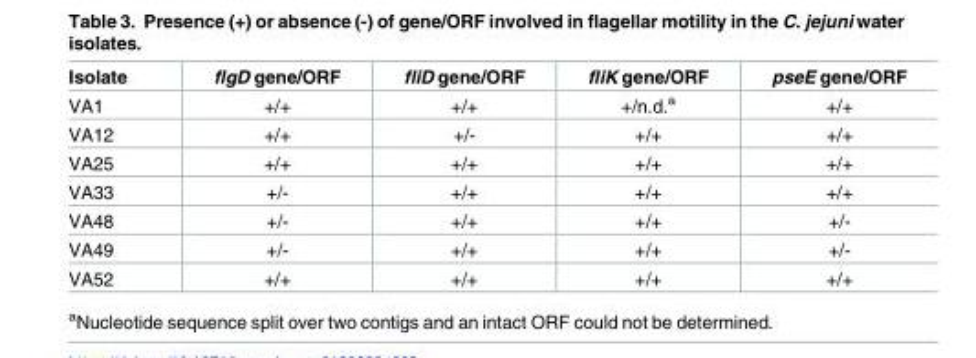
<table><thead><tr><td>Isolate</td><td>flgD gene/ORF</td><td>fliD gene/ORF</td><td>fliK gene/ORF</td><td>pseE gene/ORF</td></tr></thead><tbody><tr><td>VA1</td><td>+/+</td><td>+/+</td><td>+/n.d.<sup>a</sup></td><td>+/+</td></tr><tr><td>VA12</td><td>+/+</td><td>+/-</td><td>+/+</td><td>+/+</td></tr><tr><td>VA25</td><td>+/+</td><td>+/+</td><td>+/+</td><td>+/+</td></tr><tr><td>VA33</td><td>+/-</td><td>+/+</td><td>+/+</td><td>+/+</td></tr><tr><td>VA48</td><td>+/-</td><td>+/+</td><td>+/+</td><td>+/-</td></tr><tr><td>VA49</td><td>+/-</td><td>+/+</td><td>+/+</td><td>+/-</td></tr><tr><td>VA52</td><td>+/+</td><td>+/+</td><td>+/+</td><td>+/+</td></tr></tbody></table>